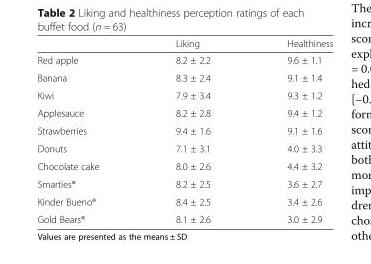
<table><thead><tr><td></td><td>Liking</td><td>Healthiness</td></tr></thead><tbody><tr><td>Red apple</td><td>8.2 ± 2.2</td><td>9.6 ± 1.1</td></tr><tr><td>Banana</td><td>8.3 ± 2.4</td><td>9.1 ± 1.4</td></tr><tr><td>Kiwi</td><td>7.9 ± 3.4</td><td>9.3 ± 1.2</td></tr><tr><td>Applesauce</td><td>8.2 ± 2.8</td><td>9.4 ± 1.2</td></tr><tr><td>Strawberries</td><td>9.4 ± 1.6</td><td>9.1 ± 1.6</td></tr><tr><td>Donuts</td><td>7.1 ± 3.1</td><td>4.0 ± 3.3</td></tr><tr><td>Chocolate cake</td><td>8.0 ± 2.6</td><td>4.4 ± 3.2</td></tr><tr><td>Smarties®</td><td>8.2 ± 2.5</td><td>3.6 ± 2.7</td></tr><tr><td>Kinder Bueno®</td><td>8.4 ± 2.5</td><td>3.4 ± 2.6</td></tr><tr><td>Gold Bears®</td><td>8.1 ± 2.6</td><td>3.0 ± 2.9</td></tr></tbody></table>